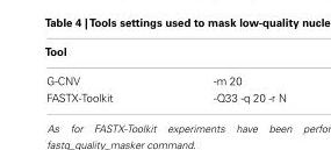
<table><thead><tr><td>Tool</td><td></td></tr></thead><tbody><tr><td>G-CNV</td><td>-m 20</td></tr><tr><td>FASTX-Toolkit</td><td>-Q33 -q 20 -r N</td></tr></tbody></table>